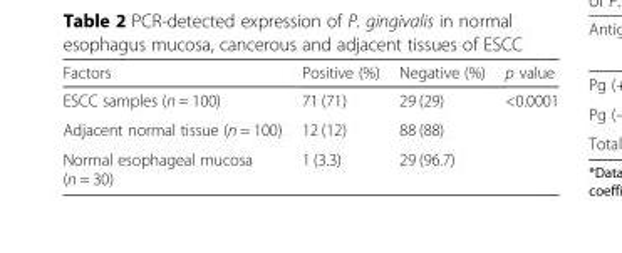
<table><thead><tr><td>Factors</td><td>Positive (%)</td><td>Negative (%)</td><td>p value</td></tr></thead><tbody><tr><td>ESCC samples (n = 100)</td><td>71 (71)</td><td>29 (29)</td><td rowspan="3">&lt;0.0001</td></tr><tr><td>Adjacent normal tissue (n = 100)</td><td>12 (12)</td><td>88 (88)</td></tr><tr><td>Normal esophageal mucosa (n = 30)</td><td>1 (3.3)</td><td>29 (96.7)</td></tr></tbody></table>